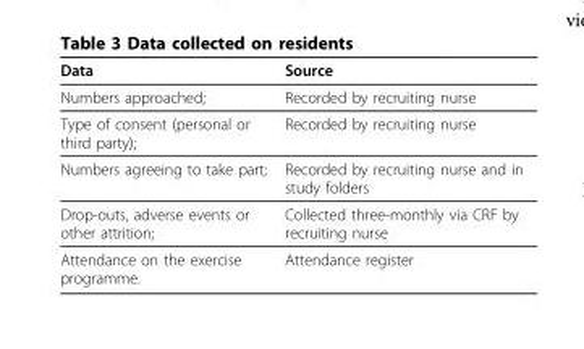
<table><thead><tr><td>Data</td><td>Source</td></tr></thead><tbody><tr><td>Numbers approached;</td><td>Recorded by recruiting nurse</td></tr><tr><td>Type of consent (personal or third party);</td><td>Recorded by recruiting nurse</td></tr><tr><td>Numbers agreeing to take part;</td><td>Recorded by recruiting nurse and in study folders</td></tr><tr><td>Drop-outs, adverse events or other attrition;</td><td>Collected three-monthly via CRF by recruiting nurse</td></tr><tr><td>Attendance on the exercise programme.</td><td>Attendance register</td></tr></tbody></table>